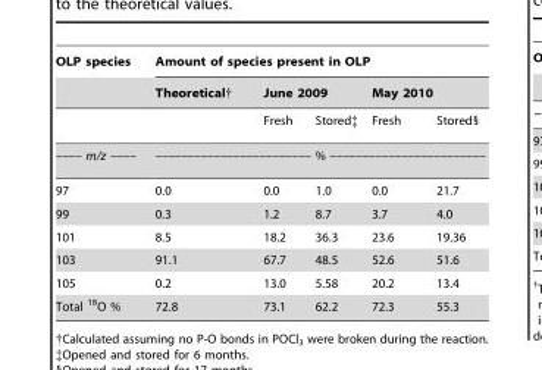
<table><thead><tr><td rowspan="3">OLP species</td><td colspan="5">Amount of species present in OLP</td></tr><tr><td rowspan="2">Theoretical†</td><td colspan="2">June 2009</td><td colspan="2">May 2010</td></tr><tr><td>Fresh</td><td>Stored‡</td><td>Fresh</td><td>Stored§</td></tr></thead><tbody><tr><td>–––– m/z ––––</td><td colspan="5">–––––––––––––––––––––––– % ––––––––––––––––––––––––</td></tr><tr><td>97</td><td>0.0</td><td>0.0</td><td>1.0</td><td>0.0</td><td>21.7</td></tr><tr><td>99</td><td>0.3</td><td>1.2</td><td>8.7</td><td>3.7</td><td>4.0</td></tr><tr><td>101</td><td>8.5</td><td>18.2</td><td>36.3</td><td>23.6</td><td>19.36</td></tr><tr><td>103</td><td>91.1</td><td>67.7</td><td>48.5</td><td>52.6</td><td>51.6</td></tr><tr><td>105</td><td>0.2</td><td>13.0</td><td>5.58</td><td>20.2</td><td>13.4</td></tr><tr><td>Total <sup>18</sup>O %</td><td>72.8</td><td>73.1</td><td>62.2</td><td>72.3</td><td>55.3</td></tr></tbody></table>